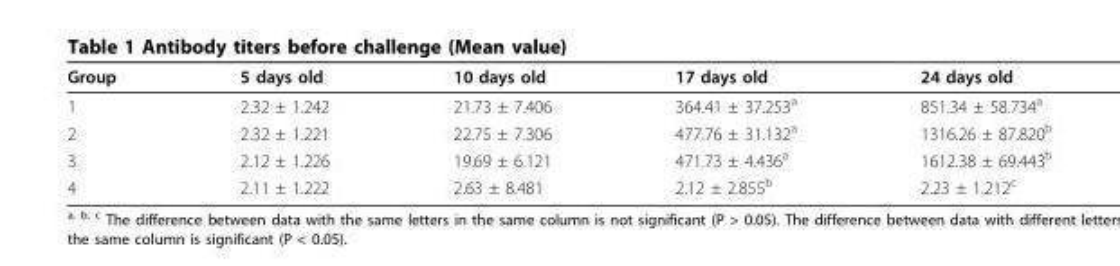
<table><thead><tr><td>Group</td><td>5 days old</td><td>10 days old</td><td>17 days old</td><td>24 days old</td></tr></thead><tbody><tr><td>1</td><td>2.32 ± 1.242</td><td>21.73 ± 7.406</td><td>364.41 ± 37.253<sup>a</sup></td><td>851.34 ± 58.734<sup>a</sup></td></tr><tr><td>2</td><td>2.32 ± 1.221</td><td>22.75 ± 7.306</td><td>477.76 ± 31.132<sup>a</sup></td><td>1316.26 ± 87.820<sup>b</sup></td></tr><tr><td>3</td><td>2.12 ± 1.226</td><td>19.69 ± 6.121</td><td>471.73 ± 4.436<sup>a</sup></td><td>1612.38 ± 69.443<sup>b</sup></td></tr><tr><td>4</td><td>2.11 ± 1.222</td><td>2.63 ± 8.481</td><td>2.12 ± 2.855<sup>b</sup></td><td>2.23 ± 1.212<sup>c</sup></td></tr></tbody></table>